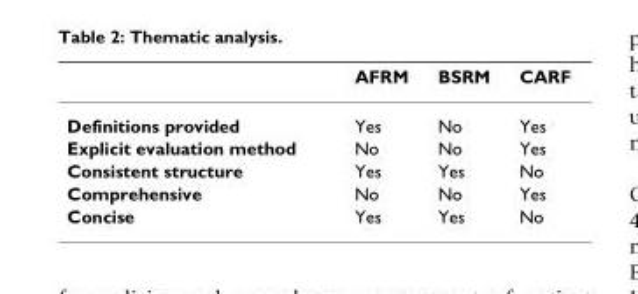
<table><thead><tr><td></td><td>AFRM</td><td>BSRM</td><td>CARF</td></tr></thead><tbody><tr><td>Definitions provided</td><td>Yes</td><td>No</td><td>Yes</td></tr><tr><td>Explicit evaluation method</td><td>No</td><td>No</td><td>Yes</td></tr><tr><td>Consistent structure</td><td>Yes</td><td>Yes</td><td>No</td></tr><tr><td>Comprehensive</td><td>No</td><td>No</td><td>Yes</td></tr><tr><td>Concise</td><td>Yes</td><td>Yes</td><td>No</td></tr></tbody></table>